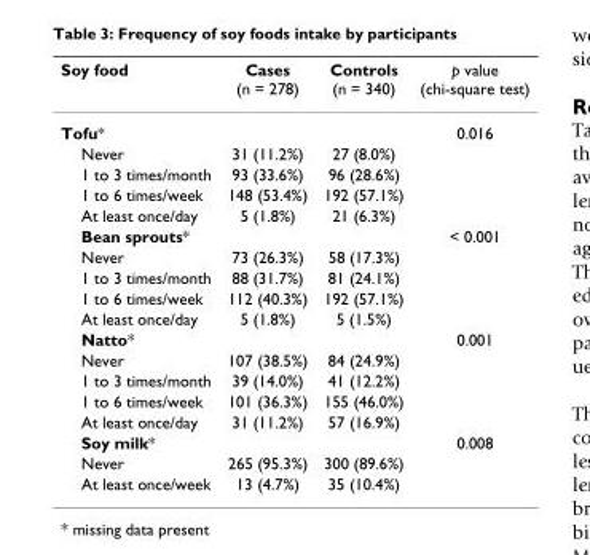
<table><thead><tr><td>Soy food</td><td>Cases (n = 278)</td><td>Controls (n = 340)</td><td>p value (chi-square test)</td></tr></thead><tbody><tr><td>Tofu*</td><td></td><td></td><td>0.016</td></tr><tr><td>Never</td><td>31 (11.2%)</td><td>27 (8.0%)</td><td></td></tr><tr><td>1 to 3 times/month</td><td>93 (33.6%)</td><td>96 (28.6%)</td><td></td></tr><tr><td>1 to 6 times/week</td><td>148 (53.4%)</td><td>192 (57.1%)</td><td></td></tr><tr><td>At least once/day</td><td>5 (1.8%)</td><td>21 (6.3%)</td><td></td></tr><tr><td>Bean sprouts*</td><td></td><td></td><td>&lt; 0.001</td></tr><tr><td>Never</td><td>73 (26.3%)</td><td>58 (17.3%)</td><td></td></tr><tr><td>1 to 3 times/month</td><td>88 (31.7%)</td><td>81 (24.1%)</td><td></td></tr><tr><td>1 to 6 times/week</td><td>112 (40.3%)</td><td>192 (57.1%)</td><td></td></tr><tr><td>At least once/day</td><td>5 (1.8%)</td><td>5 (1.5%)</td><td></td></tr><tr><td>Natto*</td><td></td><td></td><td>0.001</td></tr><tr><td>Never</td><td>107 (38.5%)</td><td>84 (24.9%)</td><td></td></tr><tr><td>1 to 3 times/month</td><td>39 (14.0%)</td><td>41 (12.2%)</td><td></td></tr><tr><td>1 to 6 times/week</td><td>101 (36.3%)</td><td>155 (46.0%)</td><td></td></tr><tr><td>At least once/day</td><td>31 (11.2%)</td><td>57 (16.9%)</td><td></td></tr><tr><td>Soy milk*</td><td></td><td></td><td>0.008</td></tr><tr><td>Never</td><td>265 (95.3%)</td><td>300 (89.6%)</td><td></td></tr><tr><td>At least once/week</td><td>13 (4.7%)</td><td>35 (10.4%)</td><td></td></tr></tbody></table>